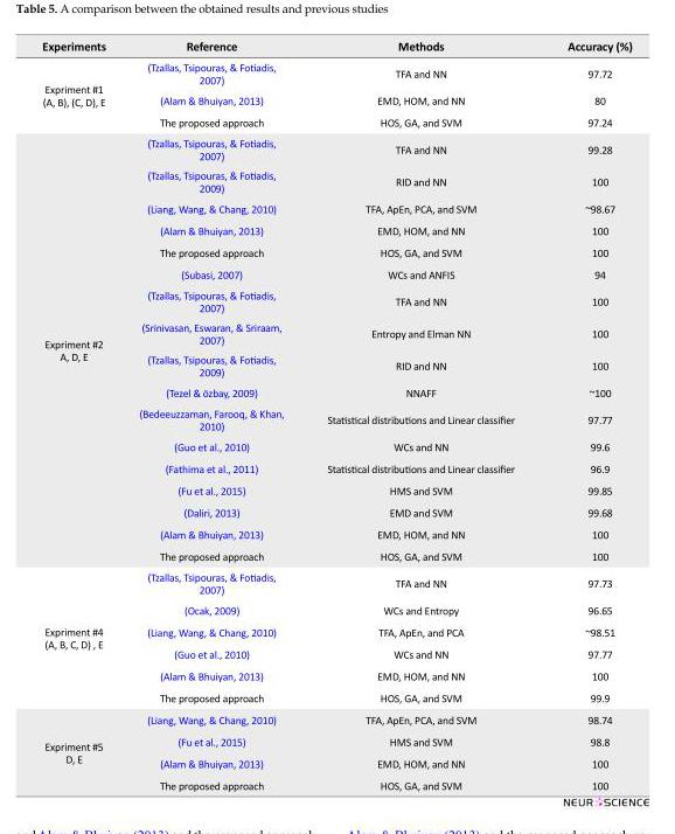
<table><thead><tr><td>Experiments</td><td>Reference</td><td>Methods</td><td>Accuracy (%)</td></tr></thead><tbody><tr><td rowspan="3">Expriment #1 (A, B), (C, D), E</td><td>(Tzallas, Tsipouras, &amp; Fotiadis, 2007)</td><td>TFA and NN</td><td>97.72</td></tr><tr><td>(Alam &amp; Bhuiyan, 2013)</td><td>EMD, HOM, and NN</td><td>80</td></tr><tr><td>The proposed approach</td><td>HOS, GA, and SVM</td><td>97.24</td></tr><tr><td rowspan="17">Expriment #2 A, D, E</td><td>(Tzallas, Tsipouras, &amp; Fotiadis, 2007)</td><td>TFA and NN</td><td>99.28</td></tr><tr><td>(Tzallas, Tsipouras, &amp; Fotiadis, 2009)</td><td>RID and NN</td><td>100</td></tr><tr><td>(Liang, Wang, &amp; Chang, 2010)</td><td>TFA, ApEn, PCA, and SVM</td><td>~98.67</td></tr><tr><td>(Alam &amp; Bhuiyan, 2013)</td><td>EMD, HOM, and NN</td><td>100</td></tr><tr><td>The proposed approach</td><td>HOS, GA, and SVM</td><td>100</td></tr><tr><td>(Subasi, 2007)</td><td>WCs and ANFIS</td><td>94</td></tr><tr><td>(Tzallas, Tsipouras, &amp; Fotiadis, 2007)</td><td>TFA and NN</td><td>100</td></tr><tr><td>(Srinivasan, Eswaran, &amp; Sriraam, 2007)</td><td>Entropy and Elman NN</td><td>100</td></tr><tr><td>(Tzallas, Tsipouras, &amp; Fotiadis, 2009)</td><td>RID and NN</td><td>100</td></tr><tr><td>(Tezel &amp; özbay, 2009)</td><td>NNAFF</td><td>~100</td></tr><tr><td>(Bedeeuzzaman, Farooq, &amp; Khan, 2010)</td><td>Statistical distributions and Linear classifier</td><td>97.77</td></tr><tr><td>(Guo et al., 2010)</td><td>WCs and NN</td><td>99.6</td></tr><tr><td>(Fathima et al., 2011)</td><td>Statistical distributions and Linear classifier</td><td>96.9</td></tr><tr><td>(Fu et al., 2015)</td><td>HMS and SVM</td><td>99.85</td></tr><tr><td>(Daliri, 2013)</td><td>EMD and SVM</td><td>99.68</td></tr><tr><td>(Alam &amp; Bhuiyan, 2013)</td><td>EMD, HOM, and NN</td><td>100</td></tr><tr><td>The proposed approach</td><td>HOS, GA, and SVM</td><td>100</td></tr><tr><td rowspan="6">Expriment #4 (A, B, C, D) , E</td><td>(Tzallas, Tsipouras, &amp; Fotiadis, 2007)</td><td>TFA and NN</td><td>97.73</td></tr><tr><td>(Ocak, 2009)</td><td>WCs and Entropy</td><td>96.65</td></tr><tr><td>(Liang, Wang, &amp; Chang, 2010)</td><td>TFA, ApEn, and PCA</td><td>~98.51</td></tr><tr><td>(Guo et al., 2010)</td><td>WCs and NN</td><td>97.77</td></tr><tr><td>(Alam &amp; Bhuiyan, 2013)</td><td>EMD, HOM, and NN</td><td>100</td></tr><tr><td>The proposed approach</td><td>HOS, GA, and SVM</td><td>99.9</td></tr><tr><td rowspan="4">Expriment #5 D, E</td><td>(Liang, Wang, &amp; Chang, 2010)</td><td>TFA, ApEn, PCA, and SVM</td><td>98.74</td></tr><tr><td>(Fu et al., 2015)</td><td>HMS and SVM</td><td>98.8</td></tr><tr><td>(Alam &amp; Bhuiyan, 2013)</td><td>EMD, HOM, and NN</td><td>100</td></tr><tr><td>The proposed approach</td><td>HOS, GA, and SVM</td><td>100</td></tr></tbody></table>